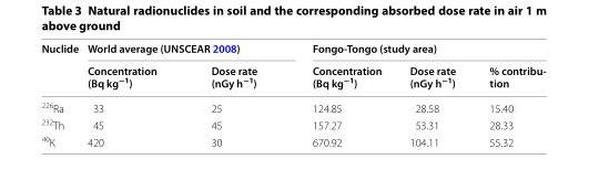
<table><thead><tr><td rowspan="2">Nuclide</td><td colspan="2">World average (UNSCEAR 2008)</td><td colspan="3">Fongo-Tongo (study area)</td></tr><tr><td>Concentration (Bq kg<sup>−1</sup>)</td><td>Dose rate (nGy h<sup>−1</sup>)</td><td>Concentration (Bq kg<sup>−1</sup>)</td><td>Dose rate (nGy h<sup>−1</sup>)</td><td>% contribu- tion</td></tr></thead><tbody><tr><td><sup>226</sup>Ra</td><td>33</td><td>25</td><td>124.85</td><td>28.58</td><td>15.40</td></tr><tr><td><sup>232</sup>Th</td><td>45</td><td>45</td><td>157.27</td><td>53.31</td><td>28.33</td></tr><tr><td><sup>40</sup>K</td><td>420</td><td>30</td><td>670.92</td><td>104.11</td><td>55.32</td></tr></tbody></table>